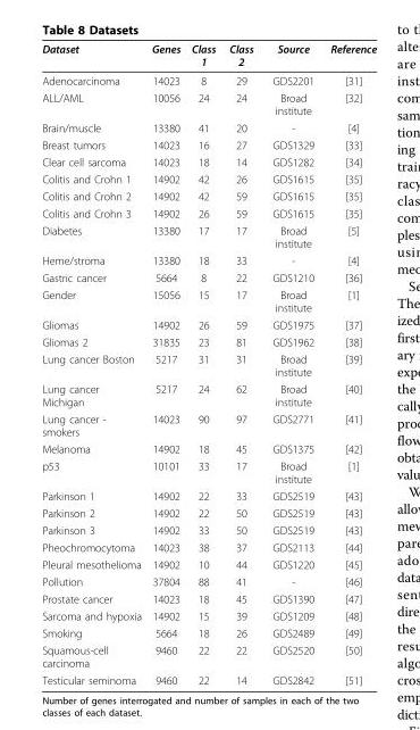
<table><thead><tr><td>Dataset</td><td>Genes</td><td>Class 1</td><td>Class 2</td><td>Source</td><td>Reference</td></tr></thead><tbody><tr><td>Adenocarcinoma</td><td>14023</td><td>8</td><td>29</td><td>GDS2201</td><td>[31]</td></tr><tr><td>ALL/AML</td><td>10056</td><td>24</td><td>24</td><td>Broad institute</td><td>[32]</td></tr><tr><td>Brain/muscle</td><td>13380</td><td>41</td><td>20</td><td>-</td><td>[4]</td></tr><tr><td>Breast tumors</td><td>14023</td><td>16</td><td>27</td><td>GDS1329</td><td>[33]</td></tr><tr><td>Clear cell sarcoma</td><td>14023</td><td>18</td><td>14</td><td>GDS1282</td><td>[34]</td></tr><tr><td>Colitis and Crohn 1</td><td>14902</td><td>42</td><td>26</td><td>GDS1615</td><td>[35]</td></tr><tr><td>Colitis and Crohn 2</td><td>14902</td><td>42</td><td>59</td><td>GDS1615</td><td>[35]</td></tr><tr><td>Colitis and Crohn 3</td><td>14902</td><td>26</td><td>59</td><td>GDS1615</td><td>[35]</td></tr><tr><td>Diabetes</td><td>13380</td><td>17</td><td>17</td><td>Broad institute</td><td>[5]</td></tr><tr><td>Heme/stroma</td><td>13380</td><td>18</td><td>33</td><td>-</td><td>[4]</td></tr><tr><td>Gastric cancer</td><td>5664</td><td>8</td><td>22</td><td>GDS1210</td><td>[36]</td></tr><tr><td>Gender</td><td>15056</td><td>15</td><td>17</td><td>Broad institute</td><td>[1]</td></tr><tr><td>Gliomas</td><td>14902</td><td>26</td><td>59</td><td>GDS1975</td><td>[37]</td></tr><tr><td>Gliomas 2</td><td>31835</td><td>23</td><td>81</td><td>GDS1962</td><td>[38]</td></tr><tr><td>Lung cancer Boston</td><td>5217</td><td>31</td><td>31</td><td>Broad institute</td><td>[39]</td></tr><tr><td>Lung cancer Michigan</td><td>5217</td><td>24</td><td>62</td><td>Broad institute</td><td>[40]</td></tr><tr><td>Lung cancer - smokers</td><td>14023</td><td>90</td><td>97</td><td>GDS2771</td><td>[41]</td></tr><tr><td>Melanoma</td><td>14902</td><td>18</td><td>45</td><td>GDS1375</td><td>[42]</td></tr><tr><td>p53</td><td>10101</td><td>33</td><td>17</td><td>Broad institute</td><td>[1]</td></tr><tr><td>Parkinson 1</td><td>14902</td><td>22</td><td>33</td><td>GDS2519</td><td>[43]</td></tr><tr><td>Parkinson 2</td><td>14902</td><td>22</td><td>50</td><td>GDS2519</td><td>[43]</td></tr><tr><td>Parkinson 3</td><td>14902</td><td>33</td><td>50</td><td>GDS2519</td><td>[43]</td></tr><tr><td>Pheochromocytoma</td><td>14023</td><td>38</td><td>37</td><td>GDS2113</td><td>[44]</td></tr><tr><td>Pleural mesothelioma</td><td>14902</td><td>10</td><td>44</td><td>GDS1220</td><td>[45]</td></tr><tr><td>Pollution</td><td>37804</td><td>88</td><td>41</td><td>-</td><td>[46]</td></tr><tr><td>Prostate cancer</td><td>14023</td><td>18</td><td>45</td><td>GDS1390</td><td>[47]</td></tr><tr><td>Sarcoma and hypoxia</td><td>14902</td><td>15</td><td>39</td><td>GDS1209</td><td>[48]</td></tr><tr><td>Smoking</td><td>5664</td><td>18</td><td>26</td><td>GDS2489</td><td>[49]</td></tr><tr><td>Squamous-cell carcinoma</td><td>9460</td><td>22</td><td>22</td><td>GDS2520</td><td>[50]</td></tr><tr><td>Testicular seminoma</td><td>9460</td><td>22</td><td>14</td><td>GDS2842</td><td>[51]</td></tr></tbody></table>